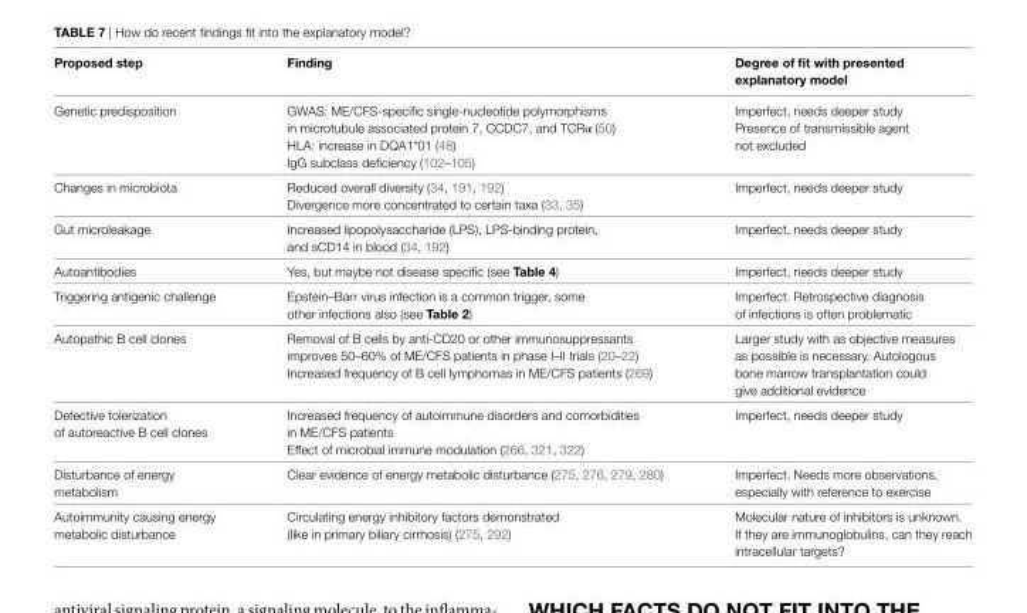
<table><thead><tr><td>proposed step</td><td>Finding</td><td>degree of fit with presented explanatory model</td></tr></thead><tbody><tr><td>Genetic predisposition</td><td>GWAS: ME/CFS-specific single-nucleotide polymorphisms in microtubule associated protein 7, CCDC7, and TCRα (50) HLA: increase in DQA1*01 (48) IgG subclass deficiency (102–105)</td><td>Imperfect, needs deeper study Presence of transmissible agent not excluded</td></tr><tr><td>Changes in microbiota</td><td>Reduced overall diversity (34, 191, 192) Divergence more concentrated to certain taxa (33, 35)</td><td>Imperfect, needs deeper study</td></tr><tr><td>Gut microleakage</td><td>Increased lipopolysaccharide (LPS), LPS-binding protein, and sCD14 in blood (34, 192)</td><td>Imperfect, needs deeper study</td></tr><tr><td>Autoantibodies</td><td>Yes, but maybe not disease specific (see table 4)</td><td>Imperfect, needs deeper study</td></tr><tr><td>Triggering antigenic challenge</td><td>Epstein–Barr virus infection is a common trigger, some other infections also (see table 2)</td><td>Imperfect. Retrospective diagnosis of infections is often problematic</td></tr><tr><td>Autopathic B cell clones</td><td>Removal of B cells by anti-CD20 or other immunosuppressants improves 50–60% of ME/CFS patients in phase I–II trials (20–22) Increased frequency of B cell lymphomas in ME/CFS patients (269)</td><td>Larger study with as objective measures as possible is necessary. Autologous bone marrow transplantation could give additional evidence</td></tr><tr><td>Defective tolerization of autoreactive B cell clones</td><td>Increased frequency of autoimmune disorders and comorbidities in ME/CFS patients Effect of microbial immune modulation (266, 321, 322)</td><td>Imperfect, needs deeper study</td></tr><tr><td>Disturbance of energy metabolism</td><td>Clear evidence of energy metabolic disturbance (275, 276, 279, 280)</td><td>Imperfect. Needs more observations, especially with reference to exercise</td></tr><tr><td>Autoimmunity causing energy metabolic disturbance</td><td>Circulating energy inhibitory factors demonstrated (like in primary biliary cirrhosis) (275, 292)</td><td>Molecular nature of inhibitors is unknown. If they are immunoglobulins, can they reach intracellular targets?</td></tr></tbody></table>